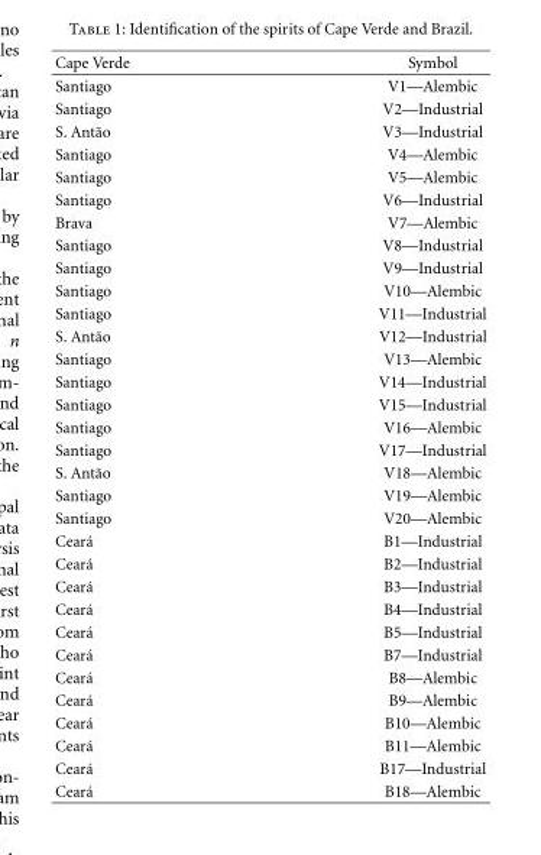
<table><thead><tr><td>Cape Verde</td><td>Symbol</td></tr></thead><tbody><tr><td>Santiago</td><td>V1—Alembic</td></tr><tr><td>Santiago</td><td>V2—Industrial</td></tr><tr><td>S. Ant˜ao</td><td>V3—Industrial</td></tr><tr><td>Santiago</td><td>V4—Alembic</td></tr><tr><td>Santiago</td><td>V5—Alembic</td></tr><tr><td>Santiago</td><td>V6—Industrial</td></tr><tr><td>Brava</td><td>V7—Alembic</td></tr><tr><td>Santiago</td><td>V8—Industrial</td></tr><tr><td>Santiago</td><td>V9—Industrial</td></tr><tr><td>Santiago</td><td>V10—Alembic</td></tr><tr><td>Santiago</td><td>V11—Industrial</td></tr><tr><td>S. Ant˜ao</td><td>V12—Industrial</td></tr><tr><td>Santiago</td><td>V13—Alembic</td></tr><tr><td>Santiago</td><td>V14—Industrial</td></tr><tr><td>Santiago</td><td>V15—Industrial</td></tr><tr><td>Santiago</td><td>V16—Alembic</td></tr><tr><td>Santiago</td><td>V17—Industrial</td></tr><tr><td>S. Ant˜ao</td><td>V18—Alembic</td></tr><tr><td>Santiago</td><td>V19—Alembic</td></tr><tr><td>Santiago</td><td>V20—Alembic</td></tr><tr><td>Cear´a</td><td>B1—Industrial</td></tr><tr><td>Cear´a</td><td>B2—Industrial</td></tr><tr><td>Cear´a</td><td>B3—Industrial</td></tr><tr><td>Cear´a</td><td>B4—Industrial</td></tr><tr><td>Cear´a</td><td>B5—Industrial</td></tr><tr><td>Cear´a</td><td>B7—Industrial</td></tr><tr><td>Cear´a</td><td>B8—Alembic</td></tr><tr><td>Cear´a</td><td>B9—Alembic</td></tr><tr><td>Cear´a</td><td>B10—Alembic</td></tr><tr><td>Cear´a</td><td>B11—Alembic</td></tr><tr><td>Cear´a</td><td>B17—Industrial</td></tr><tr><td>Cear´a</td><td>B18—Alembic</td></tr></tbody></table>